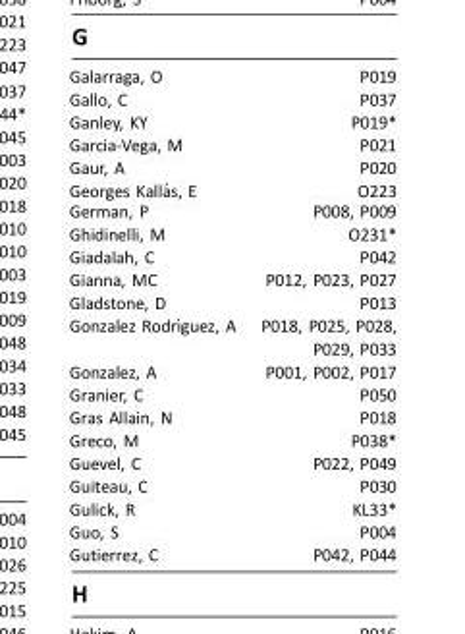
<table><tbody><tr><td>Galarraga, O</td><td>P019</td></tr><tr><td>Gallo, C</td><td>P037</td></tr><tr><td>Ganley, KY</td><td>P019*</td></tr><tr><td>Garcia-Vega, M</td><td>P021</td></tr><tr><td>Gaur, A</td><td>P020</td></tr><tr><td>Georges Kalla´s, E</td><td>O223</td></tr><tr><td>German, P</td><td>P008, P009</td></tr><tr><td>Ghidinelli, M</td><td>O231*</td></tr><tr><td>Giadalah, C</td><td>P042</td></tr><tr><td>Gianna, MC</td><td>P012, P023, P027</td></tr><tr><td>Gladstone, D</td><td>P013</td></tr><tr><td>Gonzalez Rodrı´guez, A</td><td>P018, P025, P028, P029, P033</td></tr><tr><td>Gonzalez, A</td><td>P001, P002, P017</td></tr><tr><td>Granier, C</td><td>P050</td></tr><tr><td>Gras Allain, N</td><td>P018</td></tr><tr><td>Greco, M</td><td>P038*</td></tr><tr><td>Guevel, C</td><td>P022, P049</td></tr><tr><td>Guiteau, C</td><td>P030</td></tr><tr><td>Gulick, R</td><td>KL33*</td></tr><tr><td>Guo, S</td><td>P004</td></tr><tr><td>Gutierrez, C</td><td>P042, P044</td></tr></tbody></table>